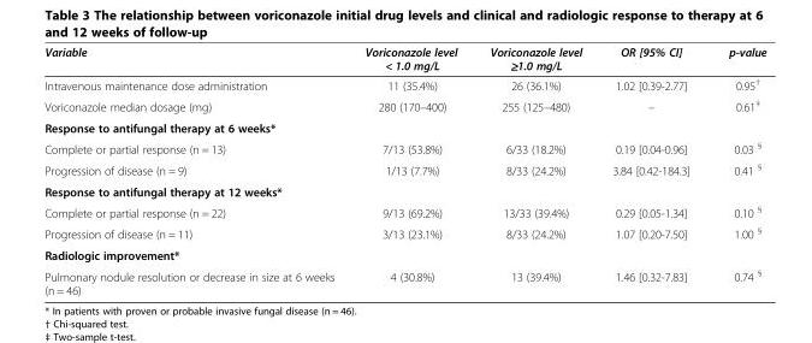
<table><thead><tr><td>Variable</td><td>Voriconazole level &lt; 1.0 mg/L</td><td>Voriconazole level ≥1.0 mg/L</td><td>OR [95% CI]</td><td>p-value</td></tr></thead><tbody><tr><td>Intravenous maintenance dose administration</td><td>11 (35.4%)</td><td>26 (36.1%)</td><td>1.02 [0.39-2.77]</td><td>0.95<sup>†</sup></td></tr><tr><td>Voriconazole median dosage (mg)</td><td>280 (170–400)</td><td>255 (125–480)</td><td>–</td><td>0.61<sup>‡</sup></td></tr><tr><td colspan="5">Response to antifungal therapy at 6 weeks*</td></tr><tr><td>Complete or partial response (n = 13)</td><td>7/13 (53.8%)</td><td>6/33 (18.2%)</td><td>0.19 [0.04-0.96]</td><td>0.03 <sup>§</sup></td></tr><tr><td>Progression of disease (n = 9)</td><td>1/13 (7.7%)</td><td>8/33 (24.2%)</td><td>3.84 [0.42-184.3]</td><td>0.41 <sup>§</sup></td></tr><tr><td colspan="5">Response to antifungal therapy at 12 weeks*</td></tr><tr><td>Complete or partial response (n = 22)</td><td>9/13 (69.2%)</td><td>13/33 (39.4%)</td><td>0.29 [0.05-1.34]</td><td>0.10 <sup>§</sup></td></tr><tr><td>Progression of disease (n = 11)</td><td>3/13 (23.1%)</td><td>8/33 (24.2%)</td><td>1.07 [0.20-7.50]</td><td>1.00 <sup>§</sup></td></tr><tr><td colspan="5">Radiologic improvement*</td></tr><tr><td>Pulmonary nodule resolution or decrease in size at 6 weeks (n = 46)</td><td>4 (30.8%)</td><td>13 (39.4%)</td><td>1.46 [0.32-7.83]</td><td>0.74 <sup>§</sup></td></tr></tbody></table>